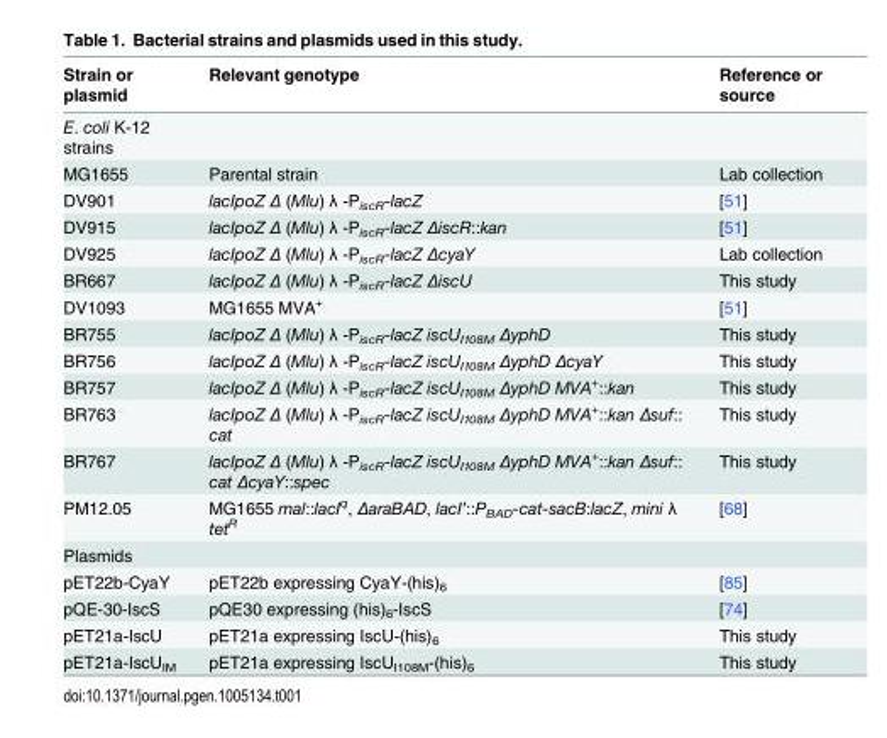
<table><thead><tr><td>Strain or plasmid</td><td>Relevant genotype</td><td>Reference or source</td></tr></thead><tbody><tr><td colspan="3">E. coli K-12 strains</td></tr><tr><td>MG1655</td><td>Parental strain</td><td>Lab collection</td></tr><tr><td>DV901</td><td>lacIpoZ Δ (Mlu) λ -P<sub>iscR</sub>-lacZ</td><td>[51]</td></tr><tr><td>DV915</td><td>lacIpoZ Δ (Mlu) λ -P<sub>iscR</sub>-lacZ ΔiscR::kan</td><td>[51]</td></tr><tr><td>DV925</td><td>lacIpoZ Δ (Mlu) λ -P<sub>iscR</sub>-lacZ ΔcyaY</td><td>Lab collection</td></tr><tr><td>BR667</td><td>lacIpoZ Δ (Mlu) λ -P<sub>iscR</sub>-lacZ ΔiscU</td><td>This study</td></tr><tr><td>DV1093</td><td>MG1655 MVA<sup>+</sup></td><td>[51]</td></tr><tr><td>BR755</td><td>lacIpoZ Δ (Mlu) λ -P<sub>iscR</sub>-lacZ iscU<sub>I108M</sub> ΔyphD</td><td>This study</td></tr><tr><td>BR756</td><td>lacIpoZ Δ (Mlu) λ -P<sub>iscR</sub>-lacZ iscU<sub>I108M</sub> ΔyphD ΔcyaY</td><td>This study</td></tr><tr><td>BR757</td><td>lacIpoZ Δ (Mlu) λ -P<sub>iscR</sub>-lacZ iscU<sub>I108M</sub> ΔyphD MVA<sup>+</sup>::kan</td><td>This study</td></tr><tr><td>BR763</td><td>lacIpoZ Δ (Mlu) λ -P<sub>iscR</sub>-lacZ iscU<sub>I108M</sub> ΔyphD MVA<sup>+</sup>::kan Δsuf:: cat</td><td>This study</td></tr><tr><td>BR767</td><td>lacIpoZ Δ (Mlu) λ -P<sub>iscR</sub>-lacZ iscU<sub>I108M</sub> ΔyphD MVA<sup>+</sup>::kan Δsuf:: cat ΔcyaY::spec</td><td>This study</td></tr><tr><td>PM12.05</td><td>MG1655 mal::lacI<sup>q</sup>, ΔaraBAD, lacI’::P<sub>BAD</sub>-cat-sacB:lacZ, mini λ tet<sup>R</sup></td><td>[68]</td></tr><tr><td colspan="3">Plasmids</td></tr><tr><td>pET22b-CyaY</td><td>pET22b expressing CyaY-(his)<sub>6</sub></td><td>[85]</td></tr><tr><td>pQE-30-IscS</td><td>pQE30 expressing (his)<sub>6</sub>-IscS</td><td>[74]</td></tr><tr><td>pET21a-IscU</td><td>pET21a expressing IscU-(his)<sub>6</sub></td><td>This study</td></tr><tr><td>pET21a-IscU<sub>IM</sub></td><td>pET21a expressing IscU<sub>I108M</sub>-(his)<sub>6</sub></td><td>This study</td></tr></tbody></table>